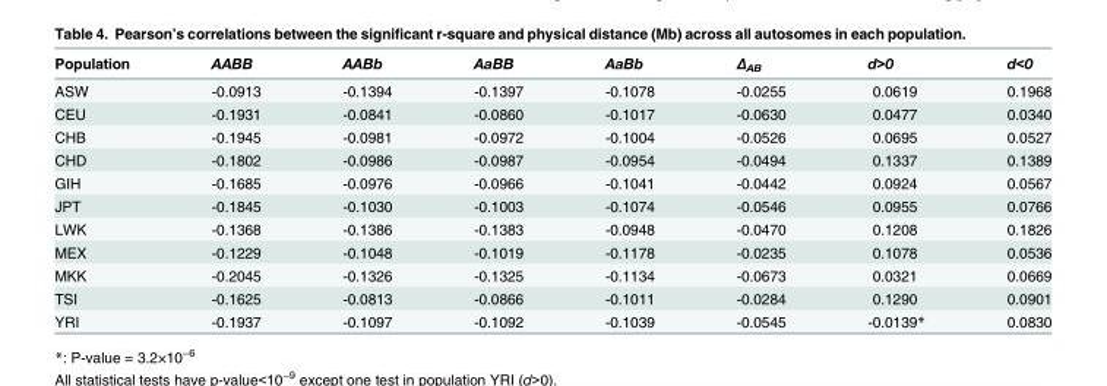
<table><thead><tr><td>Population</td><td>AABB</td><td>AABb</td><td>AaBB</td><td>AaBb</td><td>Δ<sub>AB</sub></td><td>d&gt;0</td><td>d&lt;0</td></tr></thead><tbody><tr><td>ASW</td><td>-0.0913</td><td>-0.1394</td><td>-0.1397</td><td>-0.1078</td><td>-0.0255</td><td>0.0619</td><td>0.1968</td></tr><tr><td>CEU</td><td>-0.1931</td><td>-0.0841</td><td>-0.0860</td><td>-0.1017</td><td>-0.0630</td><td>0.0477</td><td>0.0340</td></tr><tr><td>CHB</td><td>-0.1945</td><td>-0.0981</td><td>-0.0972</td><td>-0.1004</td><td>-0.0526</td><td>0.0695</td><td>0.0527</td></tr><tr><td>CHD</td><td>-0.1802</td><td>-0.0986</td><td>-0.0987</td><td>-0.0954</td><td>-0.0494</td><td>0.1337</td><td>0.1389</td></tr><tr><td>GIH</td><td>-0.1685</td><td>-0.0976</td><td>-0.0966</td><td>-0.1041</td><td>-0.0442</td><td>0.0924</td><td>0.0567</td></tr><tr><td>JPT</td><td>-0.1845</td><td>-0.1030</td><td>-0.1003</td><td>-0.1074</td><td>-0.0546</td><td>0.0955</td><td>0.0766</td></tr><tr><td>LWK</td><td>-0.1368</td><td>-0.1386</td><td>-0.1383</td><td>-0.0948</td><td>-0.0470</td><td>0.1208</td><td>0.1826</td></tr><tr><td>MEX</td><td>-0.1229</td><td>-0.1048</td><td>-0.1019</td><td>-0.1178</td><td>-0.0235</td><td>0.1078</td><td>0.0536</td></tr><tr><td>MKK</td><td>-0.2045</td><td>-0.1326</td><td>-0.1325</td><td>-0.1134</td><td>-0.0673</td><td>0.0321</td><td>0.0669</td></tr><tr><td>TSI</td><td>-0.1625</td><td>-0.0813</td><td>-0.0866</td><td>-0.1011</td><td>-0.0284</td><td>0.1290</td><td>0.0901</td></tr><tr><td>YRI</td><td>-0.1937</td><td>-0.1097</td><td>-0.1092</td><td>-0.1039</td><td>-0.0545</td><td>-0.0139*</td><td>0.0830</td></tr></tbody></table>